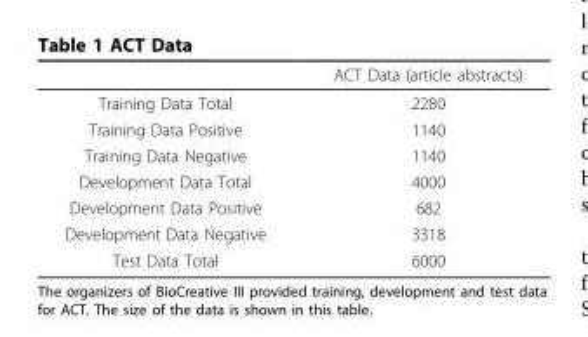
<table><thead><tr><td></td><td>ACT Data (article abstracts)</td></tr></thead><tbody><tr><td>Training Data Total</td><td>2280</td></tr><tr><td>Training Data Positive</td><td>1140</td></tr><tr><td>Training Data Negative</td><td>1140</td></tr><tr><td>Development Data Total</td><td>4000</td></tr><tr><td>Development Data Positive</td><td>682</td></tr><tr><td>Development Data Negative</td><td>3318</td></tr><tr><td>Test Data Total</td><td>6000</td></tr></tbody></table>